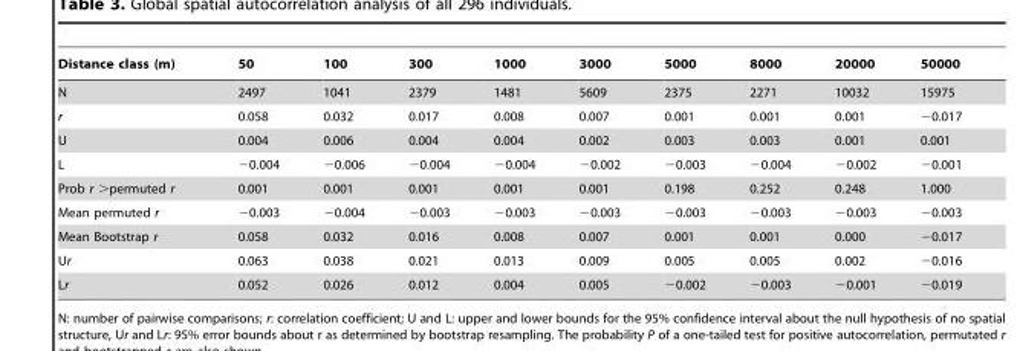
<table><thead><tr><td>Distance class (m)</td><td>50</td><td>100</td><td>300</td><td>1000</td><td>3000</td><td>5000</td><td>8000</td><td>20000</td><td>50000</td></tr></thead><tbody><tr><td>N</td><td>2497</td><td>1041</td><td>2379</td><td>1481</td><td>5609</td><td>2375</td><td>2271</td><td>10032</td><td>15975</td></tr><tr><td>r</td><td>0.058</td><td>0.032</td><td>0.017</td><td>0.008</td><td>0.007</td><td>0.001</td><td>0.001</td><td>0.001</td><td>−0.017</td></tr><tr><td>U</td><td>0.004</td><td>0.006</td><td>0.004</td><td>0.004</td><td>0.002</td><td>0.003</td><td>0.003</td><td>0.001</td><td>0.001</td></tr><tr><td>L</td><td>−0.004</td><td>−0.006</td><td>−0.004</td><td>−0.004</td><td>−0.002</td><td>−0.003</td><td>−0.004</td><td>−0.002</td><td>−0.001</td></tr><tr><td>Prob r &gt;permuted r</td><td>0.001</td><td>0.001</td><td>0.001</td><td>0.001</td><td>0.001</td><td>0.198</td><td>0.252</td><td>0.248</td><td>1.000</td></tr><tr><td>Mean permuted r</td><td>−0.003</td><td>−0.004</td><td>−0.003</td><td>−0.003</td><td>−0.003</td><td>−0.003</td><td>−0.003</td><td>−0.003</td><td>−0.003</td></tr><tr><td>Mean Bootstrap r</td><td>0.058</td><td>0.032</td><td>0.016</td><td>0.008</td><td>0.007</td><td>0.001</td><td>0.001</td><td>0.000</td><td>−0.017</td></tr><tr><td>Ur</td><td>0.063</td><td>0.038</td><td>0.021</td><td>0.013</td><td>0.009</td><td>0.005</td><td>0.005</td><td>0.002</td><td>−0.016</td></tr><tr><td>Lr</td><td>0.052</td><td>0.026</td><td>0.012</td><td>0.004</td><td>0.005</td><td>−0.002</td><td>−0.003</td><td>−0.001</td><td>−0.019</td></tr></tbody></table>